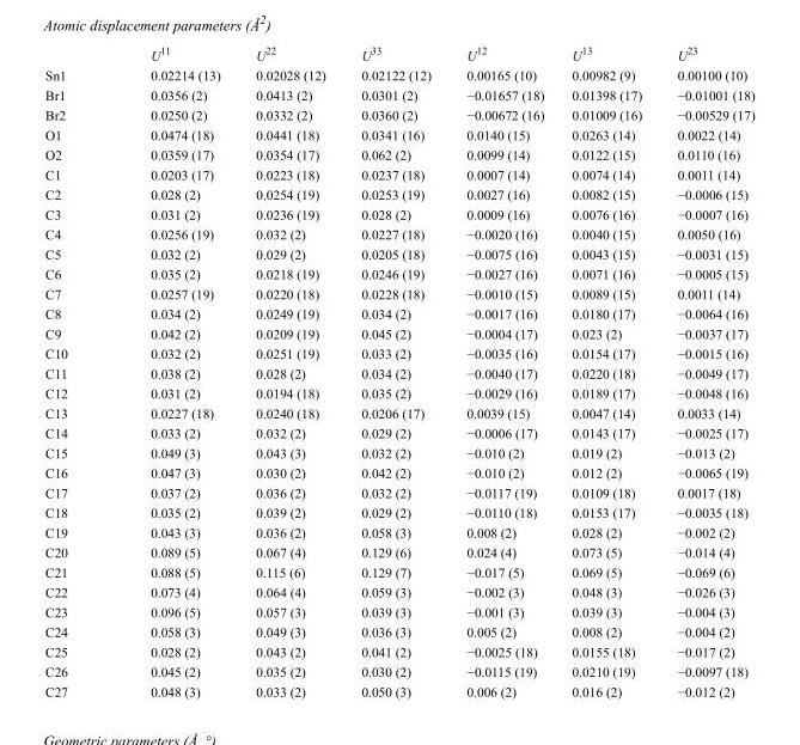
<table><thead><tr><td></td><td>U<sup>11</sup></td><td>U<sup>22</sup></td><td>U<sup>33</sup></td><td>U<sup>12</sup></td><td>U<sup>13</sup></td><td>U<sup>23</sup></td></tr></thead><tbody><tr><td>Sn1</td><td>0.02214 (13)</td><td>0.02028 (12)</td><td>0.02122 (12)</td><td>0.00165 (10)</td><td>0.00982 (9)</td><td>0.00100 (10)</td></tr><tr><td>Br1</td><td>0.0356 (2)</td><td>0.0413 (2)</td><td>0.0301 (2)</td><td>−0.01657 (18)</td><td>0.01398 (17)</td><td>−0.01001 (18)</td></tr><tr><td>Br2</td><td>0.0250 (2)</td><td>0.0332 (2)</td><td>0.0360 (2)</td><td>−0.00672 (16)</td><td>0.01009 (16)</td><td>−0.00529 (17)</td></tr><tr><td>O1</td><td>0.0474 (18)</td><td>0.0441 (18)</td><td>0.0341 (16)</td><td>0.0140 (15)</td><td>0.0263 (14)</td><td>0.0022 (14)</td></tr><tr><td>O2</td><td>0.0359 (17)</td><td>0.0354 (17)</td><td>0.062 (2)</td><td>0.0099 (14)</td><td>0.0122 (15)</td><td>0.0110 (16)</td></tr><tr><td>C1</td><td>0.0203 (17)</td><td>0.0223 (18)</td><td>0.0237 (18)</td><td>0.0007 (14)</td><td>0.0074 (14)</td><td>0.0011 (14)</td></tr><tr><td>C2</td><td>0.028 (2)</td><td>0.0254 (19)</td><td>0.0253 (19)</td><td>0.0027 (16)</td><td>0.0082 (15)</td><td>−0.0006 (15)</td></tr><tr><td>C3</td><td>0.031 (2)</td><td>0.0236 (19)</td><td>0.028 (2)</td><td>0.0009 (16)</td><td>0.0076 (16)</td><td>−0.0007 (16)</td></tr><tr><td>C4</td><td>0.0256 (19)</td><td>0.032 (2)</td><td>0.0227 (18)</td><td>−0.0020 (16)</td><td>0.0040 (15)</td><td>0.0050 (16)</td></tr><tr><td>C5</td><td>0.032 (2)</td><td>0.029 (2)</td><td>0.0205 (18)</td><td>−0.0075 (16)</td><td>0.0043 (15)</td><td>−0.0031 (15)</td></tr><tr><td>C6</td><td>0.035 (2)</td><td>0.0218 (19)</td><td>0.0246 (19)</td><td>−0.0027 (16)</td><td>0.0071 (16)</td><td>−0.0005 (15)</td></tr><tr><td>C7</td><td>0.0257 (19)</td><td>0.0220 (18)</td><td>0.0228 (18)</td><td>−0.0010 (15)</td><td>0.0089 (15)</td><td>0.0011 (14)</td></tr><tr><td>C8</td><td>0.034 (2)</td><td>0.0249 (19)</td><td>0.034 (2)</td><td>−0.0017 (16)</td><td>0.0180 (17)</td><td>−0.0064 (16)</td></tr><tr><td>C9</td><td>0.042 (2)</td><td>0.0209 (19)</td><td>0.045 (2)</td><td>−0.0004 (17)</td><td>0.023 (2)</td><td>−0.0037 (17)</td></tr><tr><td>C10</td><td>0.032 (2)</td><td>0.0251 (19)</td><td>0.033 (2)</td><td>−0.0035 (16)</td><td>0.0154 (17)</td><td>−0.0015 (16)</td></tr><tr><td>C11</td><td>0.038 (2)</td><td>0.028 (2)</td><td>0.034 (2)</td><td>−0.0040 (17)</td><td>0.0220 (18)</td><td>−0.0049 (17)</td></tr><tr><td>C12</td><td>0.031 (2)</td><td>0.0194 (18)</td><td>0.035 (2)</td><td>−0.0029 (16)</td><td>0.0189 (17)</td><td>−0.0048 (16)</td></tr><tr><td>C13</td><td>0.0227 (18)</td><td>0.0240 (18)</td><td>0.0206 (17)</td><td>0.0039 (15)</td><td>0.0047 (14)</td><td>0.0033 (14)</td></tr><tr><td>C14</td><td>0.033 (2)</td><td>0.032 (2)</td><td>0.029 (2)</td><td>−0.0006 (17)</td><td>0.0143 (17)</td><td>−0.0025 (17)</td></tr><tr><td>C15</td><td>0.049 (3)</td><td>0.043 (3)</td><td>0.032 (2)</td><td>−0.010 (2)</td><td>0.019 (2)</td><td>−0.013 (2)</td></tr><tr><td>C16</td><td>0.047 (3)</td><td>0.030 (2)</td><td>0.042 (2)</td><td>−0.010 (2)</td><td>0.012 (2)</td><td>−0.0065 (19)</td></tr><tr><td>C17</td><td>0.037 (2)</td><td>0.036 (2)</td><td>0.032 (2)</td><td>−0.0117 (19)</td><td>0.0109 (18)</td><td>0.0017 (18)</td></tr><tr><td>C18</td><td>0.035 (2)</td><td>0.039 (2)</td><td>0.029 (2)</td><td>−0.0110 (18)</td><td>0.0153 (17)</td><td>−0.0035 (18)</td></tr><tr><td>C19</td><td>0.043 (3)</td><td>0.036 (2)</td><td>0.058 (3)</td><td>0.008 (2)</td><td>0.028 (2)</td><td>−0.002 (2)</td></tr><tr><td>C20</td><td>0.089 (5)</td><td>0.067 (4)</td><td>0.129 (6)</td><td>0.024 (4)</td><td>0.073 (5)</td><td>−0.014 (4)</td></tr><tr><td>C21</td><td>0.088 (5)</td><td>0.115 (6)</td><td>0.129 (7)</td><td>−0.017 (5)</td><td>0.069 (5)</td><td>−0.069 (6)</td></tr><tr><td>C22</td><td>0.073 (4)</td><td>0.064 (4)</td><td>0.059 (3)</td><td>−0.002 (3)</td><td>0.048 (3)</td><td>−0.026 (3)</td></tr><tr><td>C23</td><td>0.096 (5)</td><td>0.057 (3)</td><td>0.039 (3)</td><td>−0.001 (3)</td><td>0.039 (3)</td><td>−0.004 (3)</td></tr><tr><td>C24</td><td>0.058 (3)</td><td>0.049 (3)</td><td>0.036 (3)</td><td>0.005 (2)</td><td>0.008 (2)</td><td>−0.004 (2)</td></tr><tr><td>C25</td><td>0.028 (2)</td><td>0.043 (2)</td><td>0.041 (2)</td><td>−0.0025 (18)</td><td>0.0155 (18)</td><td>−0.017 (2)</td></tr><tr><td>C26</td><td>0.045 (2)</td><td>0.035 (2)</td><td>0.030 (2)</td><td>−0.0115 (19)</td><td>0.0210 (19)</td><td>−0.0097 (18)</td></tr><tr><td>C27</td><td>0.048 (3)</td><td>0.033 (2)</td><td>0.050 (3)</td><td>0.006 (2)</td><td>0.016 (2)</td><td>−0.012 (2)</td></tr></tbody></table>